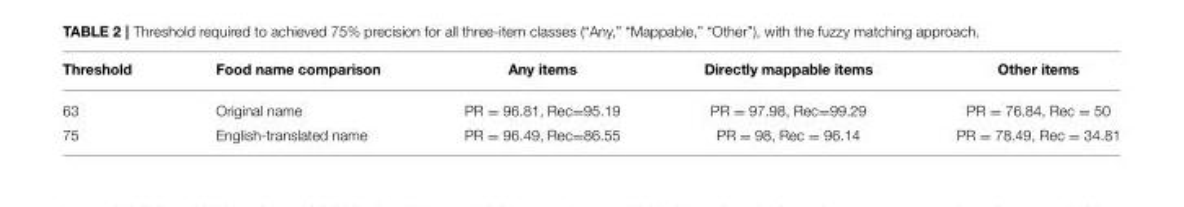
<table><thead><tr><td>Threshold</td><td>Food name comparison</td><td>Any items</td><td>Directly mappable items</td><td>Other items</td></tr></thead><tbody><tr><td>63</td><td>Original name</td><td>PR = 96.81, Rec=95.19</td><td>PR = 97.98, Rec=99.29</td><td>PR = 76.84, Rec = 50</td></tr><tr><td>75</td><td>English-translated name</td><td>PR = 96.49, Rec=86.55</td><td>PR = 98, Rec = 96.14</td><td>PR = 78.49, Rec = 34.81</td></tr></tbody></table>